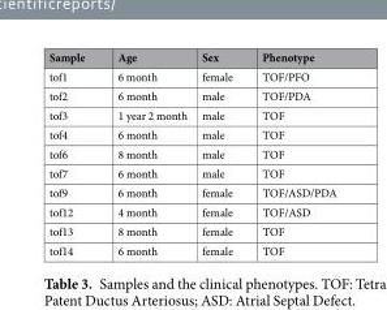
<table><thead><tr><td>Sample</td><td>Age</td><td>Sex</td><td>Phenotype</td></tr></thead><tbody><tr><td>tof1</td><td>6 month</td><td>female</td><td>TOF/PFO</td></tr><tr><td>tof2</td><td>6 month</td><td>male</td><td>TOF/PDA</td></tr><tr><td>tof3</td><td>1 year 2 month</td><td>male</td><td>TOF</td></tr><tr><td>tof4</td><td>6 month</td><td>male</td><td>TOF</td></tr><tr><td>tof6</td><td>8 month</td><td>male</td><td>TOF</td></tr><tr><td>tof7</td><td>6 month</td><td>male</td><td>TOF</td></tr><tr><td>tof9</td><td>6 month</td><td>female</td><td>TOF/ASD/PDA</td></tr><tr><td>tof12</td><td>4 month</td><td>female</td><td>TOF/ASD</td></tr><tr><td>tof13</td><td>8 month</td><td>female</td><td>TOF</td></tr><tr><td>tof14</td><td>6 month</td><td>female</td><td>TOF</td></tr></tbody></table>